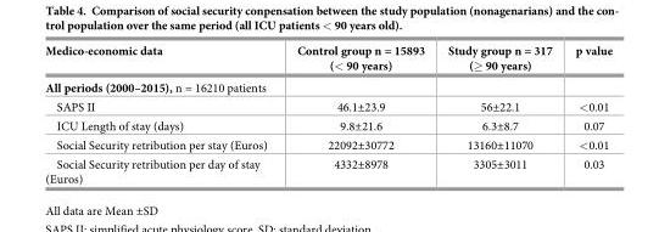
<table><thead><tr><td>Medico-economic data</td><td>Control group n = 15893 (&lt; 90 years)</td><td>Study group n = 317 (≥ 90 years)</td><td>p value</td></tr></thead><tbody><tr><td colspan="4">All periods (2000–2015), n = 16210 patients</td></tr><tr><td>SAPS II</td><td>46.1±23.9</td><td>56±22.1</td><td>&lt;0.01</td></tr><tr><td>ICU Length of stay (days)</td><td>9.8±21.6</td><td>6.3±8.7</td><td>0.07</td></tr><tr><td>Social Security retribution per stay (Euros)</td><td>22092±30772</td><td>13160±11070</td><td>&lt;0.01</td></tr><tr><td>Social Security retribution per day of stay (Euros)</td><td>4332±8978</td><td>3305±3011</td><td>0.03</td></tr></tbody></table>